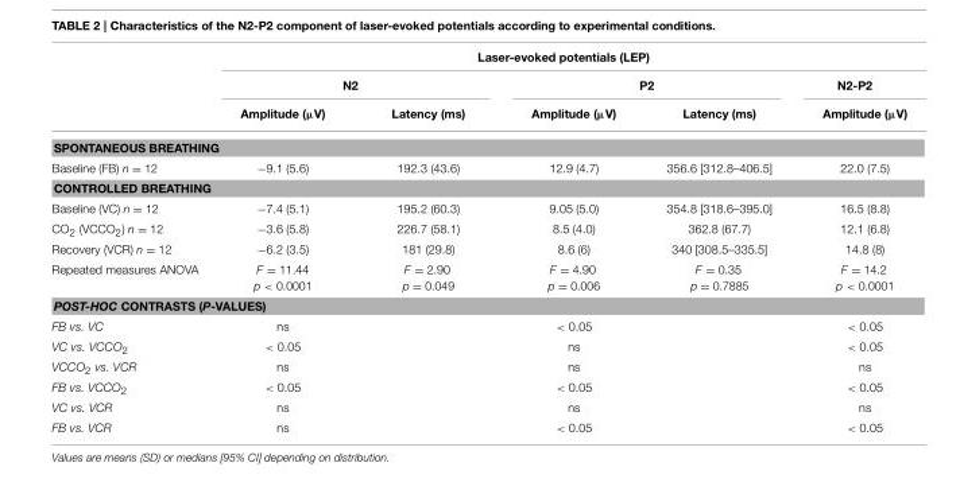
<table><thead><tr><td rowspan="3"></td><td colspan="5">Laser-evoked potentials (LEP)</td></tr><tr><td colspan="2">N2</td><td colspan="2">P2</td><td rowspan="2">N2-P2 Amplitude (µV)</td></tr><tr><td>Amplitude (µV)</td><td>Latency (ms)</td><td>Amplitude (µV)</td><td>Latency (ms)</td></tr></thead><tbody><tr><td colspan="6">SPONTANEOUS BREATHING</td></tr><tr><td>Baseline (FB) n = 12</td><td>−9.1 (5.6)</td><td>192.3 (43.6)</td><td>12.9 (4.7)</td><td>356.6 [312.8–406.5]</td><td>22.0 (7.5)</td></tr><tr><td colspan="6">CONTROLLED BREATHING</td></tr><tr><td>Baseline (VC) n = 12</td><td>−7.4 (5.1)</td><td>195.2 (60.3)</td><td>9.05 (5.0)</td><td>354.8 [318.6–395.0]</td><td>16.5 (8.8)</td></tr><tr><td>CO<sub>2</sub> (VCCO<sub>2</sub>) n = 12</td><td>−3.6 (5.8)</td><td>226.7 (58.1)</td><td>8.5 (4.0)</td><td>362.8 (67.7)</td><td>12.1 (6.8)</td></tr><tr><td>Recovery (VCR) n = 12</td><td>−6.2 (3.5)</td><td>181 (29.8)</td><td>8.6 (6)</td><td>340 [308.5–335.5]</td><td>14.8 (8)</td></tr><tr><td>Repeated measures ANOVA</td><td>F = 11.44 p &lt; 0.0001</td><td>F = 2.90 p = 0.049</td><td>F = 4.90 p = 0.006</td><td>F = 0.35 p = 0.7885</td><td>F = 14.2 p &lt; 0.0001</td></tr><tr><td colspan="6">POST-HOC CONTRASTS (P-VALUES)</td></tr><tr><td>FB vs. VC</td><td>ns</td><td></td><td>&lt; 0.05</td><td></td><td>&lt; 0.05</td></tr><tr><td>VC vs. VCCO<sub>2</sub></td><td>&lt; 0.05</td><td></td><td>ns</td><td></td><td>&lt; 0.05</td></tr><tr><td>VCCO<sub>2</sub> vs. VCR</td><td>ns</td><td></td><td>ns</td><td></td><td>ns</td></tr><tr><td>FB vs. VCCO<sub>2</sub></td><td>&lt; 0.05</td><td></td><td>&lt; 0.05</td><td></td><td>&lt; 0.05</td></tr><tr><td>VC vs. VCR</td><td>ns</td><td></td><td>ns</td><td></td><td>ns</td></tr><tr><td>FB vs. VCR</td><td>ns</td><td></td><td>&lt; 0.05</td><td></td><td>&lt; 0.05</td></tr></tbody></table>